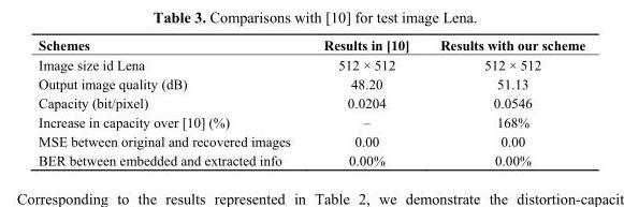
<table><thead><tr><td>Schemes</td><td>Results in [10]</td><td>Results with our scheme</td></tr></thead><tbody><tr><td>Image size id Lena</td><td>512 × 512</td><td>512 × 512</td></tr><tr><td>Output image quality (dB)</td><td>48.20</td><td>51.13</td></tr><tr><td>Capacity (bit/pixel)</td><td>0.0204</td><td>0.0546</td></tr><tr><td>Increase in capacity over [10] (%)</td><td>–</td><td>168%</td></tr><tr><td>MSE between original and recovered images</td><td>0.00</td><td>0.00</td></tr><tr><td>BER between embedded and extracted info</td><td>0.00%</td><td>0.00%</td></tr></tbody></table>